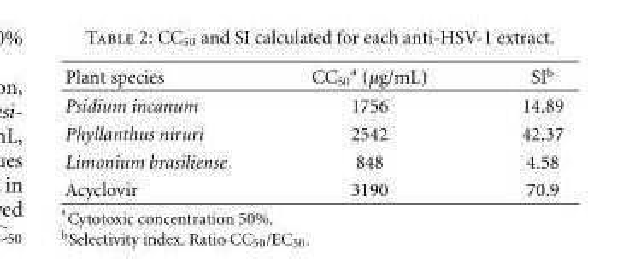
<table><thead><tr><td>Plant species</td><td>CC<sub>50</sub> <sup>a</sup> (µg/mL)</td><td>SI<sup>b</sup></td></tr></thead><tbody><tr><td>Psidium incanum</td><td>1756</td><td>14.89</td></tr><tr><td>Phyllanthus niruri</td><td>2542</td><td>42.37</td></tr><tr><td>Limonium brasiliense</td><td>848</td><td>4.58</td></tr><tr><td>Acyclovir</td><td>3190</td><td>70.9</td></tr></tbody></table>